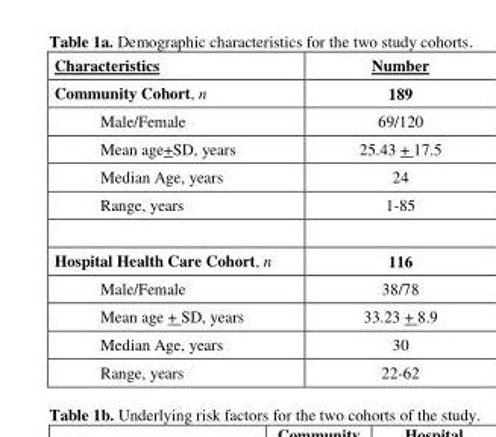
<table><thead><tr><td>Characteristics</td><td>Number</td></tr></thead><tbody><tr><td>Community Cohort, n</td><td>189</td></tr><tr><td>Male/Female</td><td>69/120</td></tr><tr><td>Mean age+SD, years</td><td>25.43 + 17.5</td></tr><tr><td>Median Age, years</td><td>24</td></tr><tr><td>Range, years</td><td>1-85</td></tr><tr><td>Hospital Health Care Cohort, n</td><td>116</td></tr><tr><td>Male/Female</td><td>38/78</td></tr><tr><td>Mean age + SD, years</td><td>33.23 + 8.9</td></tr><tr><td>Median Age, years</td><td>30</td></tr><tr><td>Range, years</td><td>22-62</td></tr></tbody></table>